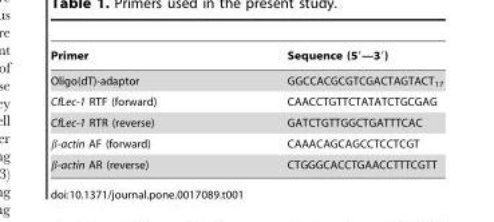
<table><thead><tr><td>Primer</td><td>Sequence (5′—3′)</td></tr></thead><tbody><tr><td>Oligo(dT)-adaptor</td><td>GGCCACGCGTCGACTAGTACT<sub>17</sub></td></tr><tr><td>CfLec-1 RTF (forward)</td><td>CAACCTGTTCTATATCTGCGAG</td></tr><tr><td>CfLec-1 RTR (reverse)</td><td>GATCTGTTGGCTGATTTCAC</td></tr><tr><td>β-actin AF (forward)</td><td>CAAACAGCAGCCTCCTCGT</td></tr><tr><td>β-actin AR (reverse)</td><td>CTGGGCACCTGAACCTTTCGTT</td></tr></tbody></table>